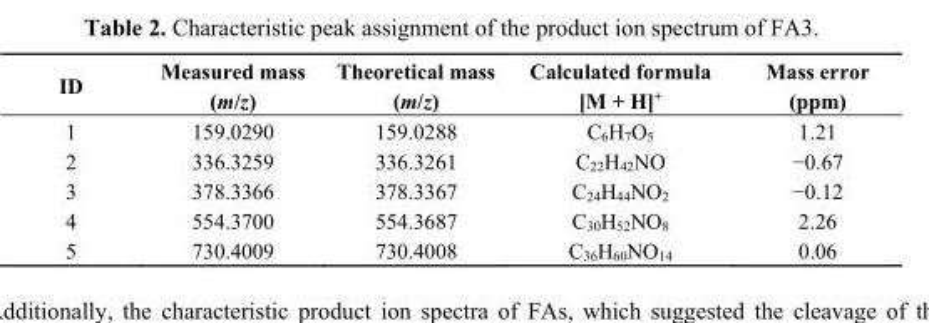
<table><thead><tr><td>ID</td><td>Measured mass (m/z)</td><td>Theoretical mass (m/z)</td><td>Calculated formula [M + H]<sup>+</sup></td><td>Mass error (ppm)</td></tr></thead><tbody><tr><td>1</td><td>159.0290</td><td>159.0288</td><td>C<sub>6</sub>H<sub>7</sub>O<sub>5</sub></td><td>1.21</td></tr><tr><td>2</td><td>336.3259</td><td>336.3261</td><td>C<sub>22</sub>H<sub>42</sub>NO</td><td>−0.67</td></tr><tr><td>3</td><td>378.3366</td><td>378.3367</td><td>C<sub>24</sub>H<sub>44</sub>NO<sub>2</sub></td><td>−0.12</td></tr><tr><td>4</td><td>554.3700</td><td>554.3687</td><td>C<sub>30</sub>H<sub>52</sub>NO<sub>8</sub></td><td>2.26</td></tr><tr><td>5</td><td>730.4009</td><td>730.4008</td><td>C<sub>36</sub>H<sub>60</sub>NO<sub>14</sub></td><td>0.06</td></tr></tbody></table>